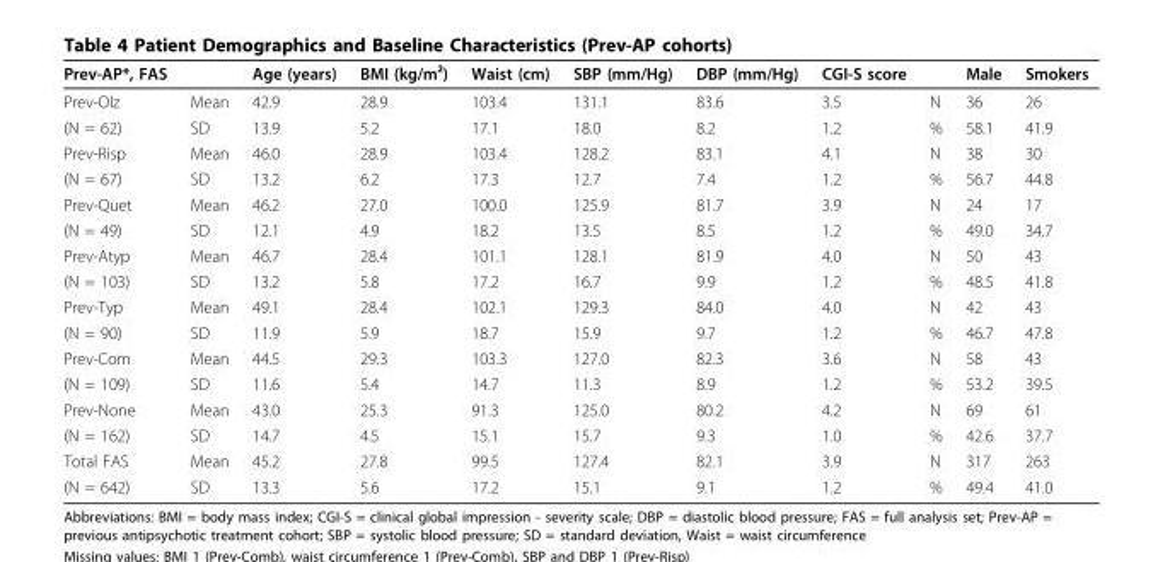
<table><thead><tr><td>Prev-AP*, FAS</td><td></td><td>Age (years)</td><td>BMI (kg/m²)</td><td>Waist (cm)</td><td>SBP (mm/Hg)</td><td>DBP (mm/Hg)</td><td>CGI-S score</td><td></td><td>Male</td><td>Smokers</td></tr></thead><tbody><tr><td>Prev-Olz</td><td>Mean</td><td>42.9</td><td>28.9</td><td>103.4</td><td>131.1</td><td>83.6</td><td>3.5</td><td>N</td><td>36</td><td>26</td></tr><tr><td>(N = 62)</td><td>SD</td><td>13.9</td><td>5.2</td><td>17.1</td><td>18.0</td><td>8.2</td><td>1.2</td><td>%</td><td>58.1</td><td>41.9</td></tr><tr><td>Prev-Risp</td><td>Mean</td><td>46.0</td><td>28.9</td><td>103.4</td><td>128.2</td><td>83.1</td><td>4.1</td><td>N</td><td>38</td><td>30</td></tr><tr><td>(N = 67)</td><td>SD</td><td>13.2</td><td>6.2</td><td>17.3</td><td>12.7</td><td>7.4</td><td>1.2</td><td>%</td><td>56.7</td><td>44.8</td></tr><tr><td>Prev-Quet</td><td>Mean</td><td>46.2</td><td>27.0</td><td>100.0</td><td>125.9</td><td>81.7</td><td>3.9</td><td>N</td><td>24</td><td>17</td></tr><tr><td>(N = 49)</td><td>SD</td><td>12.1</td><td>4.9</td><td>18.2</td><td>13.5</td><td>8.5</td><td>1.2</td><td>%</td><td>49.0</td><td>34.7</td></tr><tr><td>Prev-Atyp</td><td>Mean</td><td>46.7</td><td>28.4</td><td>101.1</td><td>128.1</td><td>81.9</td><td>4.0</td><td>N</td><td>50</td><td>43</td></tr><tr><td>(N = 103)</td><td>SD</td><td>13.2</td><td>5.8</td><td>17.2</td><td>16.7</td><td>9.9</td><td>1.2</td><td>%</td><td>48.5</td><td>41.8</td></tr><tr><td>Prev-Typ</td><td>Mean</td><td>49.1</td><td>28.4</td><td>102.1</td><td>129.3</td><td>84.0</td><td>4.0</td><td>N</td><td>42</td><td>43</td></tr><tr><td>(N = 90)</td><td>SD</td><td>11.9</td><td>5.9</td><td>18.7</td><td>15.9</td><td>9.7</td><td>1.2</td><td>%</td><td>46.7</td><td>47.8</td></tr><tr><td>Prev-Com</td><td>Mean</td><td>44.5</td><td>29.3</td><td>103.3</td><td>127.0</td><td>82.3</td><td>3.6</td><td>N</td><td>58</td><td>43</td></tr><tr><td>(N = 109)</td><td>SD</td><td>11.6</td><td>5.4</td><td>14.7</td><td>11.3</td><td>8.9</td><td>1.2</td><td>%</td><td>53.2</td><td>39.5</td></tr><tr><td>Prev-None</td><td>Mean</td><td>43.0</td><td>25.3</td><td>91.3</td><td>125.0</td><td>80.2</td><td>4.2</td><td>N</td><td>69</td><td>61</td></tr><tr><td>(N = 162)</td><td>SD</td><td>14.7</td><td>4.5</td><td>15.1</td><td>15.7</td><td>9.3</td><td>1.0</td><td>%</td><td>42.6</td><td>37.7</td></tr><tr><td>Total FAS</td><td>Mean</td><td>45.2</td><td>27.8</td><td>99.5</td><td>127.4</td><td>82.1</td><td>3.9</td><td>N</td><td>317</td><td>263</td></tr><tr><td>(N = 642)</td><td>SD</td><td>13.3</td><td>5.6</td><td>17.2</td><td>15.1</td><td>9.1</td><td>1.2</td><td>%</td><td>49.4</td><td>41.0</td></tr></tbody></table>